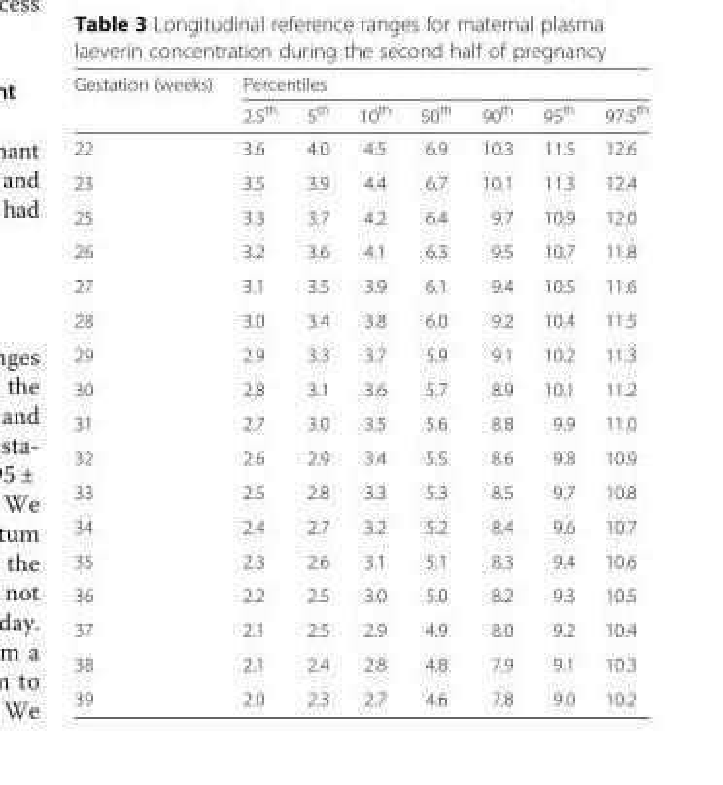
<table><thead><tr><td rowspan="2">Gestation (weeks)</td><td colspan="7">Percentiles</td></tr><tr><td>2.5<sup>th</sup></td><td>5<sup>th</sup></td><td>10<sup>th</sup></td><td>50<sup>th</sup></td><td>90<sup>th</sup></td><td>95<sup>th</sup></td><td>97.5<sup>th</sup></td></tr></thead><tbody><tr><td>22</td><td>3.6</td><td>4.0</td><td>4.5</td><td>6.9</td><td>10.3</td><td>11.5</td><td>12.6</td></tr><tr><td>23</td><td>3.5</td><td>3.9</td><td>4.4</td><td>6.7</td><td>10.1</td><td>11.3</td><td>12.4</td></tr><tr><td>25</td><td>3.3</td><td>3.7</td><td>4.2</td><td>6.4</td><td>9.7</td><td>10.9</td><td>12.0</td></tr><tr><td>26</td><td>3.2</td><td>3.6</td><td>4.1</td><td>6.3</td><td>9.5</td><td>10.7</td><td>11.8</td></tr><tr><td>27</td><td>3.1</td><td>3.5</td><td>3.9</td><td>6.1</td><td>9.4</td><td>10.5</td><td>11.6</td></tr><tr><td>28</td><td>3.0</td><td>3.4</td><td>3.8</td><td>6.0</td><td>9.2</td><td>10.4</td><td>11.5</td></tr><tr><td>29</td><td>2.9</td><td>3.3</td><td>3.7</td><td>5.9</td><td>9.1</td><td>10.2</td><td>11.3</td></tr><tr><td>30</td><td>2.8</td><td>3.1</td><td>3.6</td><td>5.7</td><td>8.9</td><td>10.1</td><td>11.2</td></tr><tr><td>31</td><td>2.7</td><td>3.0</td><td>3.5</td><td>5.6</td><td>8.8</td><td>9.9</td><td>11.0</td></tr><tr><td>32</td><td>2.6</td><td>2.9</td><td>3.4</td><td>5.5</td><td>8.6</td><td>9.8</td><td>10.9</td></tr><tr><td>33</td><td>2.5</td><td>2.8</td><td>3.3</td><td>5.3</td><td>8.5</td><td>9.7</td><td>10.8</td></tr><tr><td>34</td><td>2.4</td><td>2.7</td><td>3.2</td><td>5.2</td><td>8.4</td><td>9.6</td><td>10.7</td></tr><tr><td>35</td><td>2.3</td><td>2.6</td><td>3.1</td><td>5.1</td><td>8.3</td><td>9.4</td><td>10.6</td></tr><tr><td>36</td><td>2.2</td><td>2.5</td><td>3.0</td><td>5.0</td><td>8.2</td><td>9.3</td><td>10.5</td></tr><tr><td>37</td><td>2.1</td><td>2.5</td><td>2.9</td><td>4.9</td><td>8.0</td><td>9.2</td><td>10.4</td></tr><tr><td>38</td><td>2.1</td><td>2.4</td><td>2.8</td><td>4.8</td><td>7.9</td><td>9.1</td><td>10.3</td></tr><tr><td>39</td><td>2.0</td><td>2.3</td><td>2.7</td><td>4.6</td><td>7.8</td><td>9.0</td><td>10.2</td></tr></tbody></table>